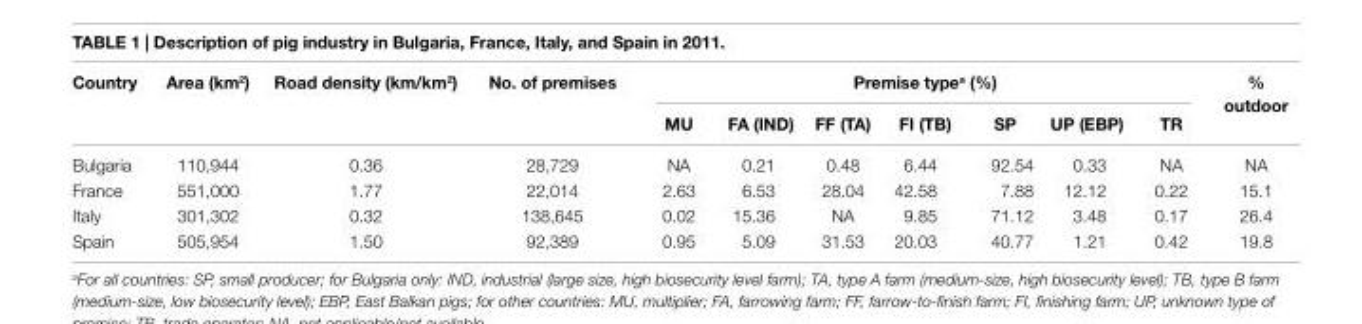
<table><thead><tr><td rowspan="2">country</td><td rowspan="2">area (km<sup>2</sup>)</td><td rowspan="2">road density (km/km<sup>2</sup>)</td><td rowspan="2">no. of premises</td><td colspan="7">Premise type<sup>a</sup> (%)</td><td rowspan="2">% outdoor</td></tr><tr><td>MU</td><td>Fa (inD)</td><td>FF (Ta)</td><td>Fi (TB)</td><td>sP</td><td>UP (eBP)</td><td>Tr</td></tr></thead><tbody><tr><td>Bulgaria</td><td>110,944</td><td>0.36</td><td>28,729</td><td>NA</td><td>0.21</td><td>0.48</td><td>6.44</td><td>92.54</td><td>0.33</td><td>NA</td><td>NA</td></tr><tr><td>France</td><td>551,000</td><td>1.77</td><td>22,014</td><td>2.63</td><td>6.53</td><td>28.04</td><td>42.58</td><td>7.88</td><td>12.12</td><td>0.22</td><td>15.1</td></tr><tr><td>Italy</td><td>301,302</td><td>0.32</td><td>138,645</td><td>0.02</td><td>15.36</td><td>NA</td><td>9.85</td><td>71.12</td><td>3.48</td><td>0.17</td><td>26.4</td></tr><tr><td>Spain</td><td>505,954</td><td>1.50</td><td>92,389</td><td>0.95</td><td>5.09</td><td>31.53</td><td>20.03</td><td>40.77</td><td>1.21</td><td>0.42</td><td>19.8</td></tr></tbody></table>